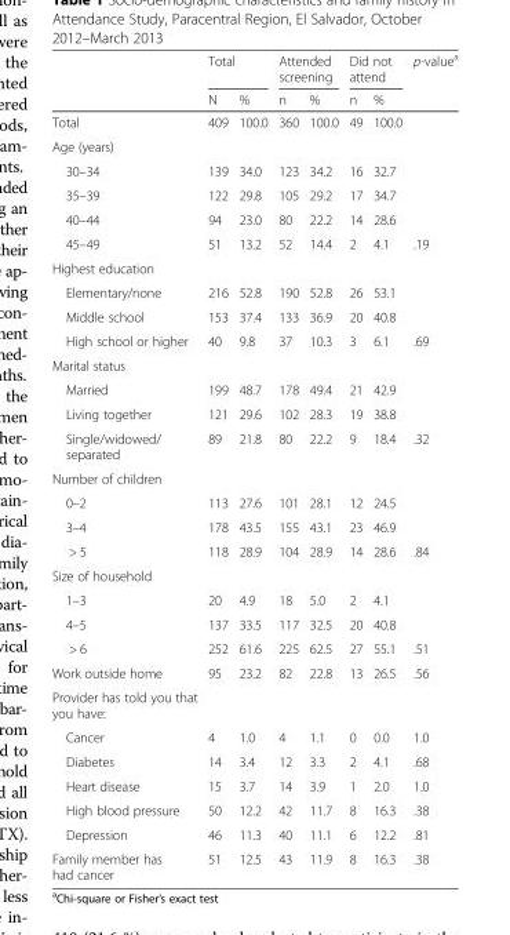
<table><thead><tr><td rowspan="2"></td><td colspan="2">Total</td><td colspan="2">Attended screening</td><td colspan="2">Did not attend</td><td rowspan="2">p-value<sup>a</sup></td></tr><tr><td>N</td><td>%</td><td>n</td><td>%</td><td>n</td><td>%</td></tr></thead><tbody><tr><td>Total</td><td>409</td><td>100.0</td><td>360</td><td>100.0</td><td>49</td><td>100.0</td><td></td></tr><tr><td colspan="8">Age (years)</td></tr><tr><td>30–34</td><td>139</td><td>34.0</td><td>123</td><td>34.2</td><td>16</td><td>32.7</td><td></td></tr><tr><td>35–39</td><td>122</td><td>29.8</td><td>105</td><td>29.2</td><td>17</td><td>34.7</td><td></td></tr><tr><td>40–44</td><td>94</td><td>23.0</td><td>80</td><td>22.2</td><td>14</td><td>28.6</td><td></td></tr><tr><td>45–49</td><td>51</td><td>13.2</td><td>52</td><td>14.4</td><td>2</td><td>4.1</td><td>.19</td></tr><tr><td colspan="8">Highest education</td></tr><tr><td>Elementary/none</td><td>216</td><td>52.8</td><td>190</td><td>52.8</td><td>26</td><td>53.1</td><td></td></tr><tr><td>Middle school</td><td>153</td><td>37.4</td><td>133</td><td>36.9</td><td>20</td><td>40.8</td><td></td></tr><tr><td>High school or higher</td><td>40</td><td>9.8</td><td>37</td><td>10.3</td><td>3</td><td>6.1</td><td>.69</td></tr><tr><td colspan="8">Marital status</td></tr><tr><td>Married</td><td>199</td><td>48.7</td><td>178</td><td>49.4</td><td>21</td><td>42.9</td><td></td></tr><tr><td>Living together</td><td>121</td><td>29.6</td><td>102</td><td>28.3</td><td>19</td><td>38.8</td><td></td></tr><tr><td>Single/widowed/ separated</td><td>89</td><td>21.8</td><td>80</td><td>22.2</td><td>9</td><td>18.4</td><td>.32</td></tr><tr><td colspan="8">Number of children</td></tr><tr><td>0–2</td><td>113</td><td>27.6</td><td>101</td><td>28.1</td><td>12</td><td>24.5</td><td></td></tr><tr><td>3–4</td><td>178</td><td>43.5</td><td>155</td><td>43.1</td><td>23</td><td>46.9</td><td></td></tr><tr><td>&gt; 5</td><td>118</td><td>28.9</td><td>104</td><td>28.9</td><td>14</td><td>28.6</td><td>.84</td></tr><tr><td colspan="8">Size of household</td></tr><tr><td>1–3</td><td>20</td><td>4.9</td><td>18</td><td>5.0</td><td>2</td><td>4.1</td><td></td></tr><tr><td>4–5</td><td>137</td><td>33.5</td><td>117</td><td>32.5</td><td>20</td><td>40.8</td><td></td></tr><tr><td>&gt; 6</td><td>252</td><td>61.6</td><td>225</td><td>62.5</td><td>27</td><td>55.1</td><td>.51</td></tr><tr><td>Work outside home</td><td>95</td><td>23.2</td><td>82</td><td>22.8</td><td>13</td><td>26.5</td><td>.56</td></tr><tr><td colspan="8">Provider has told you that you have:</td></tr><tr><td>Cancer</td><td>4</td><td>1.0</td><td>4</td><td>1.1</td><td>0</td><td>0.0</td><td>1.0</td></tr><tr><td>Diabetes</td><td>14</td><td>3.4</td><td>12</td><td>3.3</td><td>2</td><td>4.1</td><td>.68</td></tr><tr><td>Heart disease</td><td>15</td><td>3.7</td><td>14</td><td>3.9</td><td>1</td><td>2.0</td><td>1.0</td></tr><tr><td>High blood pressure</td><td>50</td><td>12.2</td><td>42</td><td>11.7</td><td>8</td><td>16.3</td><td>.38</td></tr><tr><td>Depression</td><td>46</td><td>11.3</td><td>40</td><td>11.1</td><td>6</td><td>12.2</td><td>.81</td></tr><tr><td>Family member has had cancer</td><td>51</td><td>12.5</td><td>43</td><td>11.9</td><td>8</td><td>16.3</td><td>.38</td></tr></tbody></table>